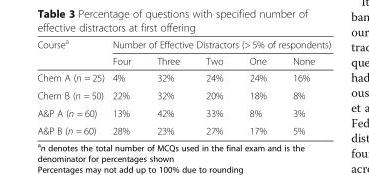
<table><thead><tr><td rowspan="2">Course<sup>a</sup></td><td colspan="5">Number of Effective Distractors (&gt; 5% of respondents)</td></tr><tr><td>Four</td><td>Three</td><td>Two</td><td>One</td><td>None</td></tr></thead><tbody><tr><td>Chem A (n = 25)</td><td>4%</td><td>32%</td><td>24%</td><td>24%</td><td>16%</td></tr><tr><td>Chem B (n = 50)</td><td>22%</td><td>32%</td><td>20%</td><td>18%</td><td>8%</td></tr><tr><td>A&amp;P A (n = 60)</td><td>13%</td><td>42%</td><td>33%</td><td>8%</td><td>3%</td></tr><tr><td>A&amp;P B (n = 60)</td><td>28%</td><td>23%</td><td>27%</td><td>17%</td><td>5%</td></tr></tbody></table>